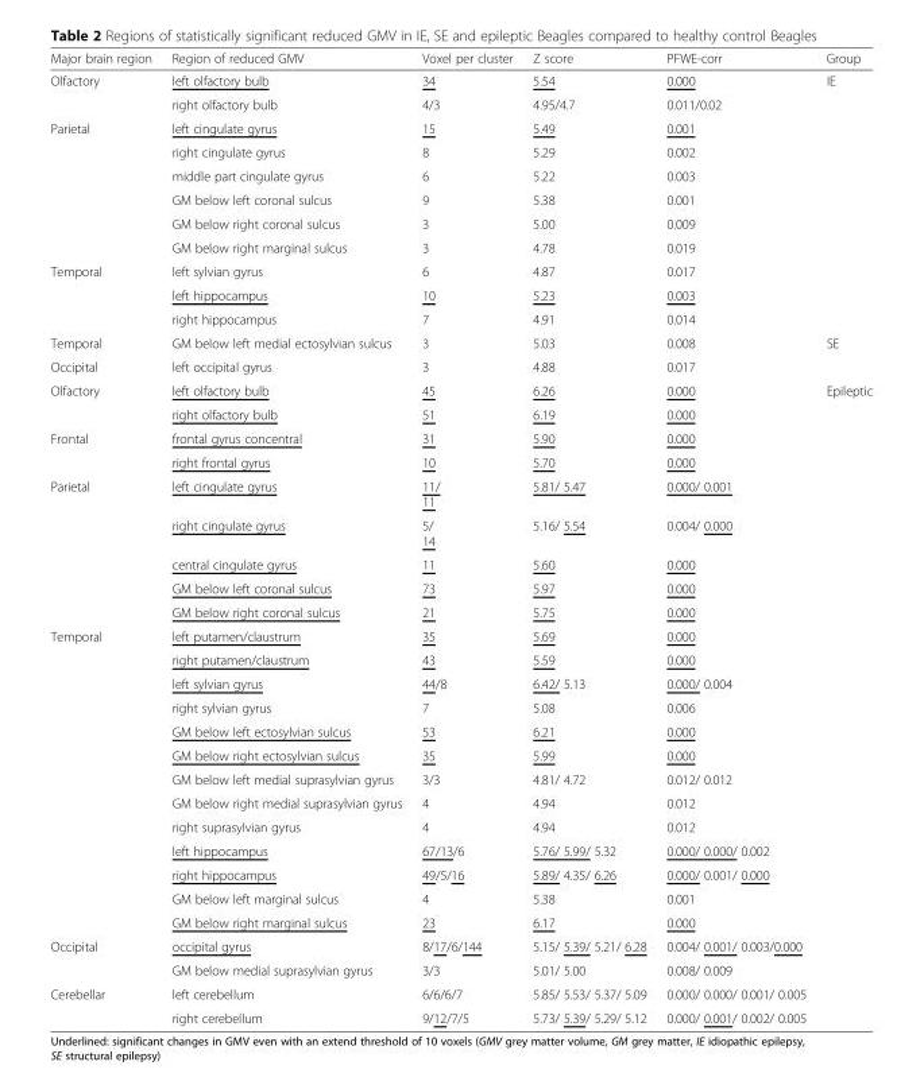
<table><thead><tr><td>Major brain region</td><td>Region of reduced GMV</td><td>Voxel per cluster</td><td>Z score</td><td>PFWE-corr</td><td>Group</td></tr></thead><tbody><tr><td rowspan="2">Olfactory</td><td>left olfactory bulb</td><td>34</td><td>5.54</td><td>0.000</td><td>IE</td></tr><tr><td>right olfactory bulb</td><td>4/3</td><td>4.95/4.7</td><td>0.011/0.02</td><td></td></tr><tr><td rowspan="6">Parietal</td><td>left cingulate gyrus</td><td>15</td><td>5.49</td><td>0.001</td><td></td></tr><tr><td>right cingulate gyrus</td><td>8</td><td>5.29</td><td>0.002</td><td></td></tr><tr><td>middle part cingulate gyrus</td><td>6</td><td>5.22</td><td>0.003</td><td></td></tr><tr><td>GM below left coronal sulcus</td><td>9</td><td>5.38</td><td>0.001</td><td></td></tr><tr><td>GM below right coronal sulcus</td><td>3</td><td>5.00</td><td>0.009</td><td></td></tr><tr><td>GM below right marginal sulcus</td><td>3</td><td>4.78</td><td>0.019</td><td></td></tr><tr><td rowspan="3">Temporal</td><td>left sylvian gyrus</td><td>6</td><td>4.87</td><td>0.017</td><td></td></tr><tr><td>left hippocampus</td><td>10</td><td>5.23</td><td>0.003</td><td></td></tr><tr><td>right hippocampus</td><td>7</td><td>4.91</td><td>0.014</td><td></td></tr><tr><td>Temporal</td><td>GM below left medial ectosylvian sulcus</td><td>3</td><td>5.03</td><td>0.008</td><td>SE</td></tr><tr><td>Occipital</td><td>left occipital gyrus</td><td>3</td><td>4.88</td><td>0.017</td><td></td></tr><tr><td rowspan="2">Olfactory</td><td>left olfactory bulb</td><td>45</td><td>6.26</td><td>0.000</td><td>Epileptic</td></tr><tr><td>right olfactory bulb</td><td>51</td><td>6.19</td><td>0.000</td><td></td></tr><tr><td rowspan="2">Frontal</td><td>frontal gyrus concentral</td><td>31</td><td>5.90</td><td>0.000</td><td></td></tr><tr><td>right frontal gyrus</td><td>10</td><td>5.70</td><td>0.000</td><td></td></tr><tr><td rowspan="5">Parietal</td><td>left cingulate gyrus</td><td>11/ 11</td><td>5.81/ 5.47</td><td>0.000/ 0.001</td><td></td></tr><tr><td>right cingulate gyrus</td><td>5/ 14</td><td>5.16/ 5.54</td><td>0.004/ 0.000</td><td></td></tr><tr><td>central cingulate gyrus</td><td>11</td><td>5.60</td><td>0.000</td><td></td></tr><tr><td>GM below left coronal sulcus</td><td>73</td><td>5.97</td><td>0.000</td><td></td></tr><tr><td>GM below right coronal sulcus</td><td>21</td><td>5.75</td><td>0.000</td><td></td></tr><tr><td rowspan="13">Temporal</td><td>left putamen/claustrum</td><td>35</td><td>5.69</td><td>0.000</td><td></td></tr><tr><td>right putamen/claustrum</td><td>43</td><td>5.59</td><td>0.000</td><td></td></tr><tr><td>left sylvian gyrus</td><td>44/8</td><td>6.42/ 5.13</td><td>0.000/ 0.004</td><td></td></tr><tr><td>right sylvian gyrus</td><td>7</td><td>5.08</td><td>0.006</td><td></td></tr><tr><td>GM below left ectosylvian sulcus</td><td>53</td><td>6.21</td><td>0.000</td><td></td></tr><tr><td>GM below right ectosylvian sulcus</td><td>35</td><td>5.99</td><td>0.000</td><td></td></tr><tr><td>GM below left medial suprasylvian gyrus</td><td>3/3</td><td>4.81/ 4.72</td><td>0.012/ 0.012</td><td></td></tr><tr><td>GM below right medial suprasylvian gyrus</td><td>4</td><td>4.94</td><td>0.012</td><td></td></tr><tr><td>right suprasylvian gyrus</td><td>4</td><td>4.94</td><td>0.012</td><td></td></tr><tr><td>left hippocampus</td><td>67/13/6</td><td>5.76/ 5.99/ 5.32</td><td>0.000/ 0.000/ 0.002</td><td></td></tr><tr><td>right hippocampus</td><td>49/5/16</td><td>5.89/ 4.35/ 6.26</td><td>0.000/ 0.001/ 0.000</td><td></td></tr><tr><td>GM below left marginal sulcus</td><td>4</td><td>5.38</td><td>0.001</td><td></td></tr><tr><td>GM below right marginal sulcus</td><td>23</td><td>6.17</td><td>0.000</td><td></td></tr><tr><td rowspan="2">Occipital</td><td>occipital gyrus</td><td>8/17/6/144</td><td>5.15/ 5.39/ 5.21/ 6.28</td><td>0.004/ 0.001/ 0.003/0.000</td><td></td></tr><tr><td>GM below medial suprasylvian gyrus</td><td>3/3</td><td>5.01/ 5.00</td><td>0.008/ 0.009</td><td></td></tr><tr><td rowspan="2">Cerebellar</td><td>left cerebellum</td><td>6/6/6/7</td><td>5.85/ 5.53/ 5.37/ 5.09</td><td>0.000/ 0.000/ 0.001/ 0.005</td><td></td></tr><tr><td>right cerebellum</td><td>9/12/7/5</td><td>5.73/ 5.39/ 5.29/ 5.12</td><td>0.000/ 0.001/ 0.002/ 0.005</td><td></td></tr></tbody></table>